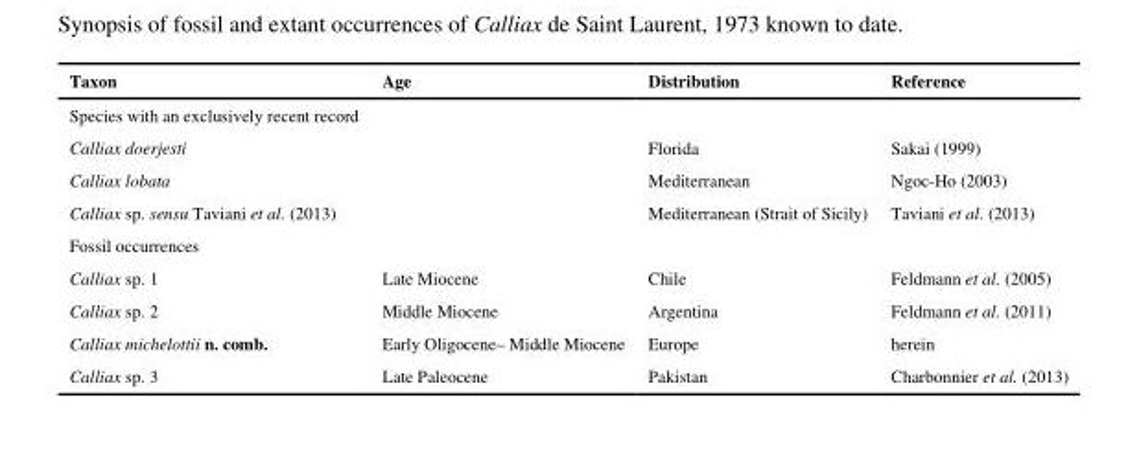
<table><thead><tr><td>Taxon</td><td>Age</td><td>Distribution</td><td>Reference</td></tr></thead><tbody><tr><td colspan="4">Species with an exclusively recent record</td></tr><tr><td>Calliax doerjesti</td><td></td><td>Florida</td><td>Sakai (1999)</td></tr><tr><td>Calliax lobata</td><td></td><td>Mediterranean</td><td>Ngoc-Ho (2003)</td></tr><tr><td>Calliax sp. sensu Taviani et al. (2013)</td><td></td><td>Mediterranean (Strait of Sicily)</td><td>Taviani et al. (2013)</td></tr><tr><td colspan="4">Fossil occurrences</td></tr><tr><td>Calliax sp. 1</td><td>Late Miocene</td><td>Chile</td><td>Feldmann et al. (2005)</td></tr><tr><td>Calliax sp. 2</td><td>Middle Miocene</td><td>Argentina</td><td>Feldmann et al. (2011)</td></tr><tr><td>Calliax michelottii n. comb.</td><td>Early Oligocene– Middle Miocene</td><td>Europe</td><td>herein</td></tr><tr><td>Calliax sp. 3</td><td>Late Paleocene</td><td>Pakistan</td><td>Charbonnier et al. (2013)</td></tr></tbody></table>